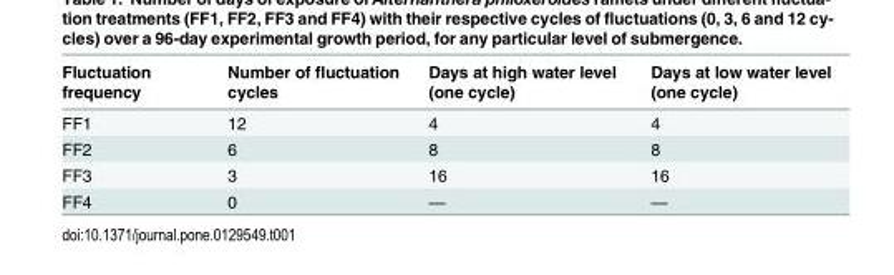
<table><thead><tr><td>Fluctuation frequency</td><td>Number of fluctuation cycles</td><td>Days at high water level (one cycle)</td><td>Days at low water level (one cycle)</td></tr></thead><tbody><tr><td>FF1</td><td>12</td><td>4</td><td>4</td></tr><tr><td>FF2</td><td>6</td><td>8</td><td>8</td></tr><tr><td>FF3</td><td>3</td><td>16</td><td>16</td></tr><tr><td>FF4</td><td>0</td><td>—</td><td>—</td></tr></tbody></table>